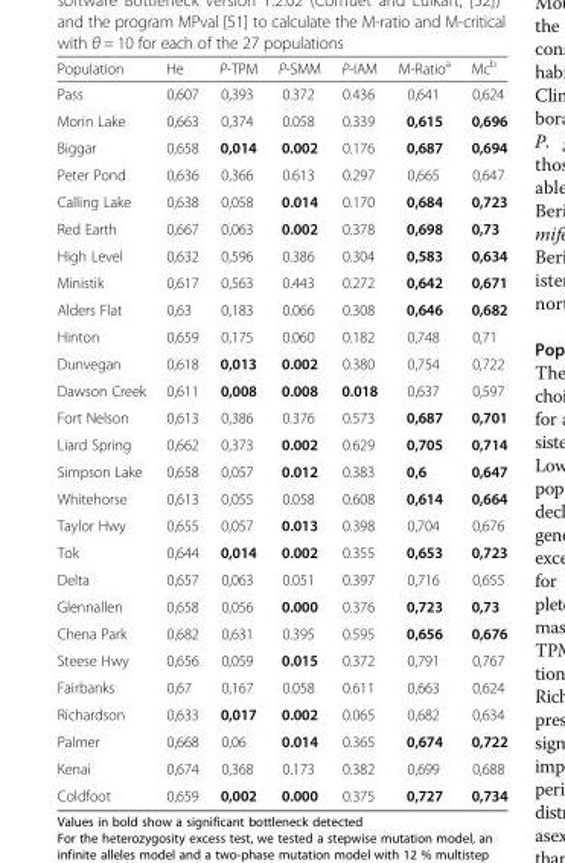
<table><thead><tr><td>Population</td><td>He</td><td>P-TPM</td><td>P-SMM</td><td>P-IAM</td><td>M-Ratio<sup>a</sup></td><td>Mc<sup>b</sup></td></tr></thead><tbody><tr><td>Pass</td><td>0,607</td><td>0,393</td><td>0.372</td><td>0.436</td><td>0,641</td><td>0,624</td></tr><tr><td>Morin Lake</td><td>0,663</td><td>0,374</td><td>0.058</td><td>0.339</td><td>0,615</td><td>0,696</td></tr><tr><td>Biggar</td><td>0,658</td><td>0,014</td><td>0.002</td><td>0.176</td><td>0,687</td><td>0,694</td></tr><tr><td>Peter Pond</td><td>0,636</td><td>0,366</td><td>0.613</td><td>0.297</td><td>0,665</td><td>0,647</td></tr><tr><td>Calling Lake</td><td>0,638</td><td>0,058</td><td>0.014</td><td>0.170</td><td>0,684</td><td>0,723</td></tr><tr><td>Red Earth</td><td>0,667</td><td>0,063</td><td>0.002</td><td>0.378</td><td>0,698</td><td>0,73</td></tr><tr><td>High Level</td><td>0,632</td><td>0,596</td><td>0.386</td><td>0.304</td><td>0,583</td><td>0,634</td></tr><tr><td>Ministik</td><td>0,617</td><td>0,563</td><td>0.443</td><td>0.272</td><td>0,642</td><td>0,671</td></tr><tr><td>Alders Flat</td><td>0,63</td><td>0,183</td><td>0.066</td><td>0.308</td><td>0,646</td><td>0,682</td></tr><tr><td>Hinton</td><td>0,659</td><td>0,175</td><td>0.060</td><td>0.182</td><td>0,748</td><td>0,71</td></tr><tr><td>Dunvegan</td><td>0,618</td><td>0,013</td><td>0.002</td><td>0.380</td><td>0,754</td><td>0,722</td></tr><tr><td>Dawson Creek</td><td>0,611</td><td>0,008</td><td>0.008</td><td>0.018</td><td>0,637</td><td>0,597</td></tr><tr><td>Fort Nelson</td><td>0,613</td><td>0,386</td><td>0.376</td><td>0.573</td><td>0,687</td><td>0,701</td></tr><tr><td>Liard Spring</td><td>0,662</td><td>0,373</td><td>0.002</td><td>0.629</td><td>0,705</td><td>0,714</td></tr><tr><td>Simpson Lake</td><td>0,658</td><td>0,057</td><td>0.012</td><td>0.383</td><td>0,6</td><td>0,647</td></tr><tr><td>Whitehorse</td><td>0,613</td><td>0,055</td><td>0.058</td><td>0.608</td><td>0,614</td><td>0,664</td></tr><tr><td>Taylor Hwy</td><td>0,655</td><td>0,057</td><td>0.013</td><td>0.398</td><td>0,704</td><td>0,676</td></tr><tr><td>Tok</td><td>0,644</td><td>0,014</td><td>0.002</td><td>0.355</td><td>0,653</td><td>0,723</td></tr><tr><td>Delta</td><td>0,657</td><td>0,063</td><td>0.051</td><td>0.397</td><td>0,716</td><td>0,655</td></tr><tr><td>Glennallen</td><td>0,658</td><td>0,056</td><td>0.000</td><td>0.376</td><td>0,723</td><td>0,73</td></tr><tr><td>Chena Park</td><td>0,682</td><td>0,631</td><td>0.395</td><td>0.595</td><td>0,656</td><td>0,676</td></tr><tr><td>Steese Hwy</td><td>0,656</td><td>0,059</td><td>0.015</td><td>0.372</td><td>0,791</td><td>0,767</td></tr><tr><td>Fairbanks</td><td>0,67</td><td>0,167</td><td>0.058</td><td>0.611</td><td>0,663</td><td>0,624</td></tr><tr><td>Richardson</td><td>0,633</td><td>0,017</td><td>0.002</td><td>0.065</td><td>0,682</td><td>0,634</td></tr><tr><td>Palmer</td><td>0,668</td><td>0,06</td><td>0.014</td><td>0.365</td><td>0,674</td><td>0,722</td></tr><tr><td>Kenai</td><td>0,674</td><td>0,368</td><td>0.173</td><td>0.382</td><td>0,699</td><td>0,688</td></tr><tr><td>Coldfoot</td><td>0,659</td><td>0,002</td><td>0.000</td><td>0.375</td><td>0,727</td><td>0,734</td></tr></tbody></table>